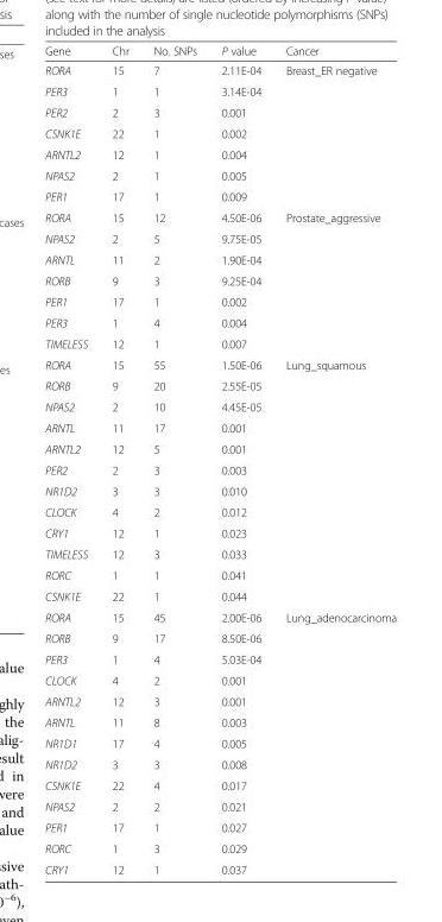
<table><thead><tr><td>Gene</td><td>Chr</td><td>No. SNPs</td><td>P value</td><td>Cancer</td></tr></thead><tbody><tr><td>RORA</td><td>15</td><td>7</td><td>2.11E-04</td><td rowspan="7">Breast_ER negative</td></tr><tr><td>PER3</td><td>1</td><td>1</td><td>3.14E-04</td></tr><tr><td>PER2</td><td>2</td><td>3</td><td>0.001</td></tr><tr><td>CSNK1E</td><td>22</td><td>1</td><td>0.002</td></tr><tr><td>ARNTL2</td><td>12</td><td>1</td><td>0.004</td></tr><tr><td>NPAS2</td><td>2</td><td>1</td><td>0.005</td></tr><tr><td>PER1</td><td>17</td><td>1</td><td>0.009</td></tr><tr><td>RORA</td><td>15</td><td>12</td><td>4.50E-06</td><td rowspan="7">Prostate_aggressive</td></tr><tr><td>NPAS2</td><td>2</td><td>5</td><td>9.75E-05</td></tr><tr><td>ARNTL</td><td>11</td><td>2</td><td>1.90E-04</td></tr><tr><td>RORB</td><td>9</td><td>3</td><td>9.25E-04</td></tr><tr><td>PER1</td><td>17</td><td>1</td><td>0.002</td></tr><tr><td>PER3</td><td>1</td><td>4</td><td>0.004</td></tr><tr><td>TIMELESS</td><td>12</td><td>1</td><td>0.007</td></tr><tr><td>RORA</td><td>15</td><td>55</td><td>1.50E-06</td><td rowspan="12">Lung_squamous</td></tr><tr><td>RORB</td><td>9</td><td>20</td><td>2.55E-05</td></tr><tr><td>NPAS2</td><td>2</td><td>10</td><td>4.45E-05</td></tr><tr><td>ARNTL</td><td>11</td><td>17</td><td>0.001</td></tr><tr><td>ARNTL2</td><td>12</td><td>5</td><td>0.001</td></tr><tr><td>PER2</td><td>2</td><td>3</td><td>0.003</td></tr><tr><td>NR1D2</td><td>3</td><td>3</td><td>0.010</td></tr><tr><td>CLOCK</td><td>4</td><td>2</td><td>0.012</td></tr><tr><td>CRY1</td><td>12</td><td>1</td><td>0.023</td></tr><tr><td>TIMELESS</td><td>12</td><td>3</td><td>0.033</td></tr><tr><td>RORC</td><td>1</td><td>1</td><td>0.041</td></tr><tr><td>CSNK1E</td><td>22</td><td>1</td><td>0.044</td></tr><tr><td>RORA</td><td>15</td><td>45</td><td>2.00E-06</td><td rowspan="13">Lung_adenocarcinoma</td></tr><tr><td>RORB</td><td>9</td><td>17</td><td>8.50E-06</td></tr><tr><td>PER3</td><td>1</td><td>4</td><td>5.03E-04</td></tr><tr><td>CLOCK</td><td>4</td><td>2</td><td>0.001</td></tr><tr><td>ARNTL2</td><td>12</td><td>3</td><td>0.001</td></tr><tr><td>ARNTL</td><td>11</td><td>8</td><td>0.003</td></tr><tr><td>NR1D1</td><td>17</td><td>4</td><td>0.005</td></tr><tr><td>NR1D2</td><td>3</td><td>3</td><td>0.008</td></tr><tr><td>CSNK1E</td><td>22</td><td>4</td><td>0.017</td></tr><tr><td>NPAS2</td><td>2</td><td>2</td><td>0.021</td></tr><tr><td>PER1</td><td>17</td><td>1</td><td>0.027</td></tr><tr><td>RORC</td><td>1</td><td>3</td><td>0.029</td></tr><tr><td>CRY1</td><td>12</td><td>1</td><td>0.037</td></tr></tbody></table>